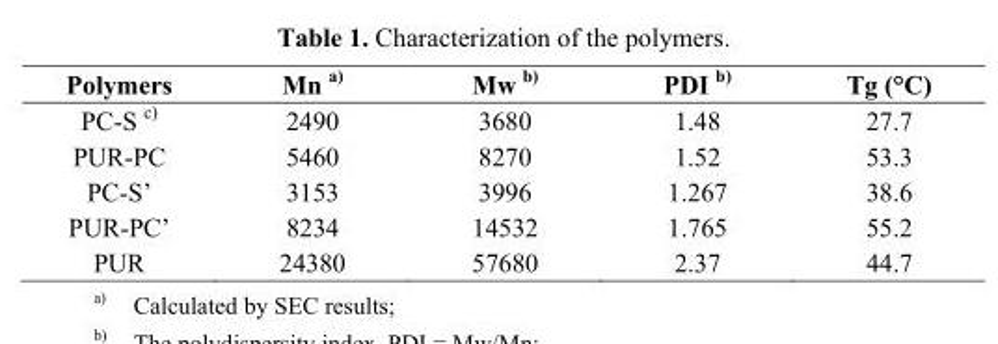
<table><thead><tr><td>Polymers</td><td>Mn a)</td><td>Mw b)</td><td>PDI b)</td><td>Tg (°C)</td></tr></thead><tbody><tr><td>PC-S c)</td><td>2490</td><td>3680</td><td>1.48</td><td>27.7</td></tr><tr><td>PUR-PC</td><td>5460</td><td>8270</td><td>1.52</td><td>53.3</td></tr><tr><td>PC-S’</td><td>3153</td><td>3996</td><td>1.267</td><td>38.6</td></tr><tr><td>PUR-PC’</td><td>8234</td><td>14532</td><td>1.765</td><td>55.2</td></tr><tr><td>PUR</td><td>24380</td><td>57680</td><td>2.37</td><td>44.7</td></tr></tbody></table>